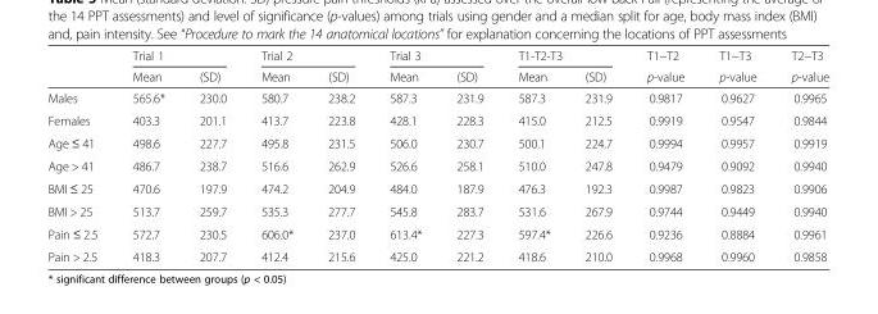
<table><thead><tr><td rowspan="2"></td><td colspan="2">Trial 1</td><td colspan="2">Trial 2</td><td colspan="2">Trial 3</td><td colspan="2">T1-T2-T3</td><td rowspan="2">T1−T2 p-value</td><td rowspan="2">T1−T3 p-value</td><td rowspan="2">T2−T3 p-value</td></tr><tr><td>Mean</td><td>(SD)</td><td>Mean</td><td>(SD)</td><td>Mean</td><td>(SD)</td><td>Mean</td><td>(SD)</td></tr></thead><tbody><tr><td>Males</td><td>565.6*</td><td>230.0</td><td>580.7</td><td>238.2</td><td>587.3</td><td>231.9</td><td>587.3</td><td>231.9</td><td>0.9817</td><td>0.9627</td><td>0.9965</td></tr><tr><td>Females</td><td>403.3</td><td>201.1</td><td>413.7</td><td>223.8</td><td>428.1</td><td>228.3</td><td>415.0</td><td>212.5</td><td>0.9919</td><td>0.9547</td><td>0.9844</td></tr><tr><td>Age ≤ 41</td><td>498.6</td><td>227.7</td><td>495.8</td><td>231.5</td><td>506.0</td><td>230.7</td><td>500.1</td><td>224.7</td><td>0.9994</td><td>0.9957</td><td>0.9919</td></tr><tr><td>Age &gt; 41</td><td>486.7</td><td>238.7</td><td>516.6</td><td>262.9</td><td>526.6</td><td>258.1</td><td>510.0</td><td>247.8</td><td>0.9479</td><td>0.9092</td><td>0.9940</td></tr><tr><td>BMI ≤ 25</td><td>470.6</td><td>197.9</td><td>474.2</td><td>204.9</td><td>484.0</td><td>187.9</td><td>476.3</td><td>192.3</td><td>0.9987</td><td>0.9823</td><td>0.9906</td></tr><tr><td>BMI &gt; 25</td><td>513.7</td><td>259.7</td><td>535.3</td><td>277.7</td><td>545.8</td><td>283.7</td><td>531.6</td><td>267.9</td><td>0.9744</td><td>0.9449</td><td>0.9940</td></tr><tr><td>Pain ≤ 2.5</td><td>572.7</td><td>230.5</td><td>606.0*</td><td>237.0</td><td>613.4*</td><td>227.3</td><td>597.4*</td><td>226.6</td><td>0.9236</td><td>0.8884</td><td>0.9961</td></tr><tr><td>Pain &gt; 2.5</td><td>418.3</td><td>207.7</td><td>412.4</td><td>215.6</td><td>425.0</td><td>221.2</td><td>418.6</td><td>210.0</td><td>0.9968</td><td>0.9960</td><td>0.9858</td></tr></tbody></table>